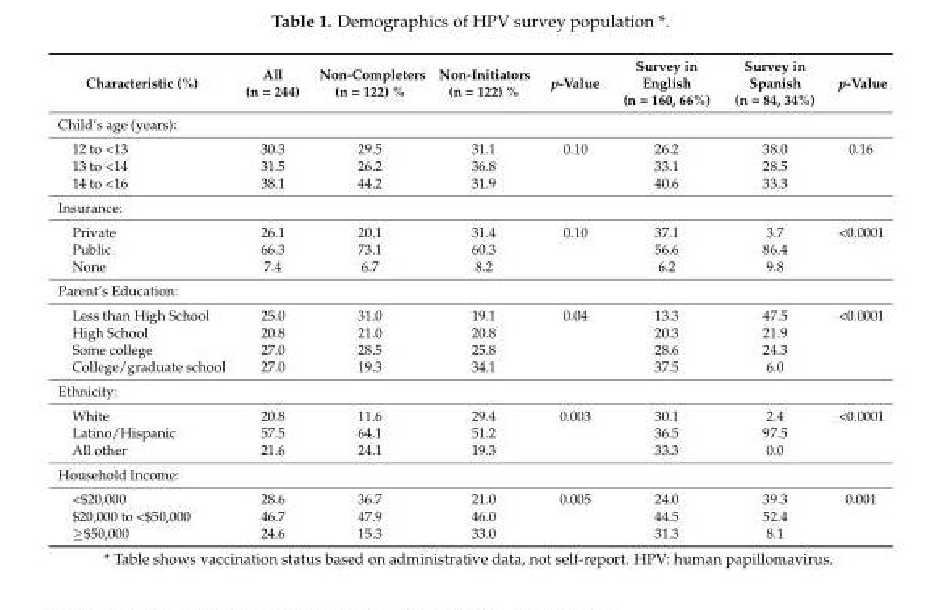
<table><thead><tr><td>Characteristic (%)</td><td>All (n = 244)</td><td>Non-Completers (n = 122) %</td><td>Non-Initiators (n = 122) %</td><td>p-Value</td><td>Survey in English (n = 160, 66%)</td><td>Survey in Spanish (n = 84, 34%)</td><td>p-Value</td></tr></thead><tbody><tr><td colspan="8">Child’s age (years):</td></tr><tr><td>12 to &lt;13</td><td>30.3</td><td>29.5</td><td>31.1</td><td>0.10</td><td>26.2</td><td>38.0</td><td>0.16</td></tr><tr><td>13 to &lt;14</td><td>31.5</td><td>26.2</td><td>36.8</td><td></td><td>33.1</td><td>28.5</td><td></td></tr><tr><td>14 to &lt;16</td><td>38.1</td><td>44.2</td><td>31.9</td><td></td><td>40.6</td><td>33.3</td><td></td></tr><tr><td colspan="8">Insurance:</td></tr><tr><td>Private</td><td>26.1</td><td>20.1</td><td>31.4</td><td>0.10</td><td>37.1</td><td>3.7</td><td>&lt;0.0001</td></tr><tr><td>Public</td><td>66.3</td><td>73.1</td><td>60.3</td><td></td><td>56.6</td><td>86.4</td><td></td></tr><tr><td>None</td><td>7.4</td><td>6.7</td><td>8.2</td><td></td><td>6.2</td><td>9.8</td><td></td></tr><tr><td colspan="8">Parent’s Education:</td></tr><tr><td>Less than High School</td><td>25.0</td><td>31.0</td><td>19.1</td><td>0.04</td><td>13.3</td><td>47.5</td><td>&lt;0.0001</td></tr><tr><td>High School</td><td>20.8</td><td>21.0</td><td>20.8</td><td></td><td>20.3</td><td>21.9</td><td></td></tr><tr><td>Some college</td><td>27.0</td><td>28.5</td><td>25.8</td><td></td><td>28.6</td><td>24.3</td><td></td></tr><tr><td>College/graduate school</td><td>27.0</td><td>19.3</td><td>34.1</td><td></td><td>37.5</td><td>6.0</td><td></td></tr><tr><td colspan="8">Ethnicity:</td></tr><tr><td>White</td><td>20.8</td><td>11.6</td><td>29.4</td><td>0.003</td><td>30.1</td><td>2.4</td><td>&lt;0.0001</td></tr><tr><td>Latino/Hispanic</td><td>57.5</td><td>64.1</td><td>51.2</td><td></td><td>36.5</td><td>97.5</td><td></td></tr><tr><td>All other</td><td>21.6</td><td>24.1</td><td>19.3</td><td></td><td>33.3</td><td>0.0</td><td></td></tr><tr><td colspan="8">Household Income:</td></tr><tr><td>&lt;$20,000</td><td>28.6</td><td>36.7</td><td>21.0</td><td>0.005</td><td>24.0</td><td>39.3</td><td>0.001</td></tr><tr><td>$20,000 to &lt;$50,000</td><td>46.7</td><td>47.9</td><td>46.0</td><td></td><td>44.5</td><td>52.4</td><td></td></tr><tr><td>≥$50,000</td><td>24.6</td><td>15.3</td><td>33.0</td><td></td><td>31.3</td><td>8.1</td><td></td></tr></tbody></table>